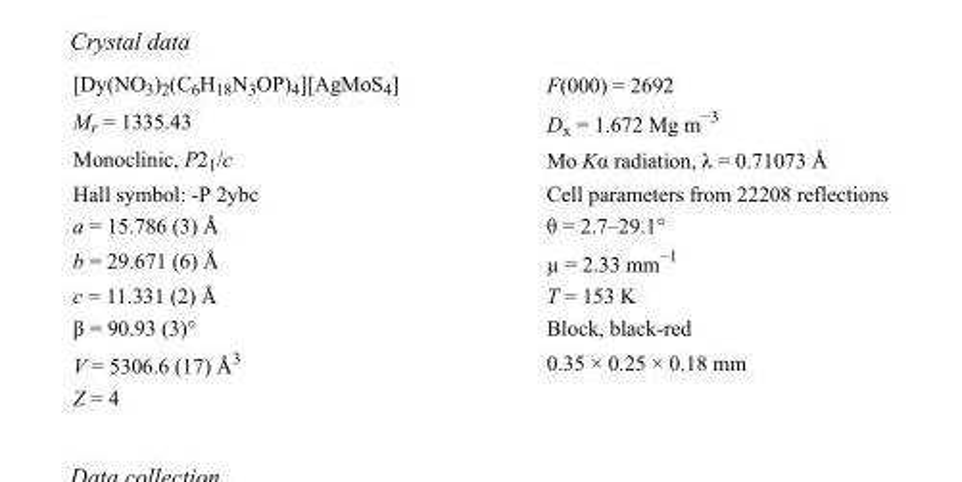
<table><tbody><tr><td>[Dy(NO<sub>3</sub>)<sub>2</sub>(C<sub>6</sub>H<sub>18</sub>N<sub>3</sub>OP)<sub>4</sub>][AgMoS<sub>4</sub>]</td><td>F(000) = 2692</td></tr><tr><td>M<sub>r</sub> = 1335.43</td><td>D<sub>x</sub> = 1.672 Mg m<sup>−3</sup></td></tr><tr><td>Monoclinic, P2<sub>1</sub>/c</td><td>Mo Kα radiation, λ = 0.71073 Å</td></tr><tr><td>Hall symbol: -P 2ybc</td><td>Cell parameters from 22208 reflections</td></tr><tr><td>a = 15.786 (3) Å</td><td>θ = 2.7–29.1°</td></tr><tr><td>b = 29.671 (6) Å</td><td>µ = 2.33 mm<sup>−1</sup></td></tr><tr><td>c = 11.331 (2) Å</td><td>T = 153 K</td></tr><tr><td>β = 90.93 (3)°</td><td>Block, black-red</td></tr><tr><td>V = 5306.6 (17) Å<sup>3</sup></td><td>0.35 × 0.25 × 0.18 mm</td></tr><tr><td>Z = 4</td><td></td></tr></tbody></table>